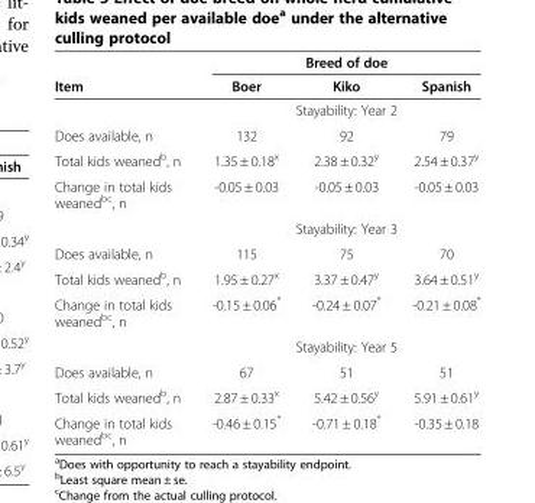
<table><thead><tr><td rowspan="2">Item</td><td colspan="3">Breed of doe</td></tr><tr><td>Boer</td><td>Kiko</td><td>Spanish</td></tr></thead><tbody><tr><td></td><td colspan="3">Stayability: Year 2</td></tr><tr><td>Does available, n</td><td>132</td><td>92</td><td>79</td></tr><tr><td>Total kids weaned<sup>b</sup>, n</td><td>1.35 ± 0.18<sup>x</sup></td><td>2.38 ± 0.32<sup>y</sup></td><td>2.54 ± 0.37<sup>y</sup></td></tr><tr><td rowspan="2">Change in total kids weaned<sup>bc</sup>, n</td><td>-0.05 ± 0.03</td><td>-0.05 ± 0.03</td><td>-0.05 ± 0.03</td></tr><tr><td colspan="3">Stayability: Year 3</td></tr><tr><td>Does available, n</td><td>115</td><td>75</td><td>70</td></tr><tr><td>Total kids weaned<sup>b</sup>, n</td><td>1.95 ± 0.27<sup>x</sup></td><td>3.37 ± 0.47<sup>y</sup></td><td>3.64 ± 0.51<sup>y</sup></td></tr><tr><td rowspan="2">Change in total kids weaned<sup>bc</sup>, n</td><td>-0.15 ± 0.06*</td><td>-0.24 ± 0.07*</td><td>-0.21 ± 0.08*</td></tr><tr><td colspan="3">Stayability: Year 5</td></tr><tr><td>Does available, n</td><td>67</td><td>51</td><td>51</td></tr><tr><td>Total kids weaned<sup>b</sup>, n</td><td>2.87 ± 0.33<sup>x</sup></td><td>5.42 ± 0.56<sup>y</sup></td><td>5.91 ± 0.61<sup>y</sup></td></tr><tr><td>Change in total kids weaned<sup>bc</sup>, n</td><td>-0.46 ± 0.15*</td><td>-0.71 ± 0.18*</td><td>-0.35 ± 0.18</td></tr></tbody></table>